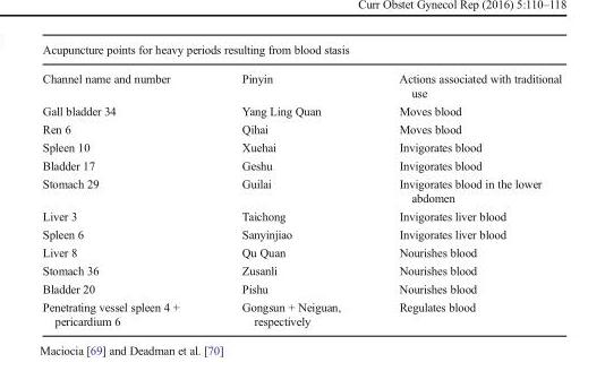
<table><thead><tr><td colspan="3">Acupuncture points for heavy periods resulting from blood stasis</td></tr><tr><td>Channel name and number</td><td>Pinyin</td><td>Actions associated with traditional use</td></tr></thead><tbody><tr><td>Gall bladder 34</td><td>Yang Ling Quan</td><td>Moves blood</td></tr><tr><td>Ren 6</td><td>Qihai</td><td>Moves blood</td></tr><tr><td>Spleen 10</td><td>Xuehai</td><td>Invigorates blood</td></tr><tr><td>Bladder 17</td><td>Geshu</td><td>Invigorates blood</td></tr><tr><td>Stomach 29</td><td>Guilai</td><td>Invigorates blood in the lower abdomen</td></tr><tr><td>Liver 3</td><td>Taichong</td><td>Invigorates liver blood</td></tr><tr><td>Spleen 6</td><td>Sanyinjiao</td><td>Invigorates liver blood</td></tr><tr><td>Liver 8</td><td>Qu Quan</td><td>Nourishes blood</td></tr><tr><td>Stomach 36</td><td>Zusanli</td><td>Nourishes blood</td></tr><tr><td>Bladder 20</td><td>Pishu</td><td>Nourishes blood</td></tr><tr><td>Penetrating vessel spleen 4 + pericardium 6</td><td>Gongsun + Neiguan, respectively</td><td>Regulates blood</td></tr></tbody></table>